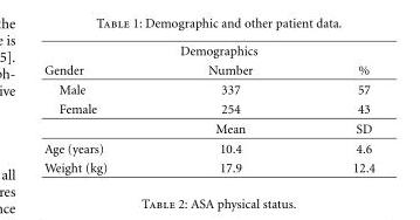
<table><thead><tr><td colspan="3">Demographics</td></tr><tr><td>Gender</td><td>Number</td><td>%</td></tr></thead><tbody><tr><td>Male</td><td>337</td><td>57</td></tr><tr><td rowspan="2">Female</td><td>254</td><td>43</td></tr><tr><td>Mean</td><td>SD</td></tr><tr><td>Age (years)</td><td>10.4</td><td>4.6</td></tr><tr><td>Weight (kg)</td><td>17.9</td><td>12.4</td></tr></tbody></table>